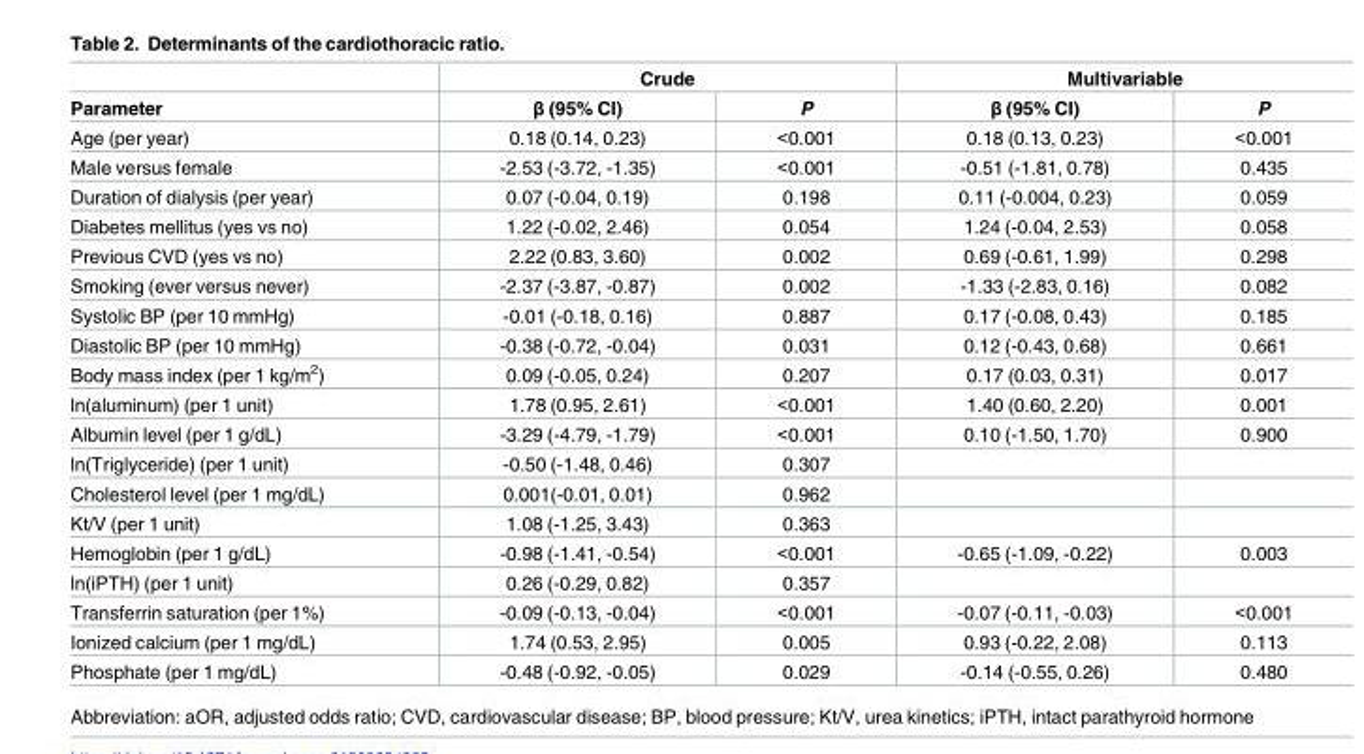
<table><thead><tr><td rowspan="2">Parameter</td><td colspan="2">Crude</td><td colspan="2">Multivariable</td></tr><tr><td>β (95% CI)</td><td>P</td><td>β (95% CI)</td><td>P</td></tr></thead><tbody><tr><td>Age (per year)</td><td>0.18 (0.14, 0.23)</td><td>&lt;0.001</td><td>0.18 (0.13, 0.23)</td><td>&lt;0.001</td></tr><tr><td>Male versus female</td><td>-2.53 (-3.72, -1.35)</td><td>&lt;0.001</td><td>-0.51 (-1.81, 0.78)</td><td>0.435</td></tr><tr><td>Duration of dialysis (per year)</td><td>0.07 (-0.04, 0.19)</td><td>0.198</td><td>0.11 (-0.004, 0.23)</td><td>0.059</td></tr><tr><td>Diabetes mellitus (yes vs no)</td><td>1.22 (-0.02, 2.46)</td><td>0.054</td><td>1.24 (-0.04, 2.53)</td><td>0.058</td></tr><tr><td>Previous CVD (yes vs no)</td><td>2.22 (0.83, 3.60)</td><td>0.002</td><td>0.69 (-0.61, 1.99)</td><td>0.298</td></tr><tr><td>Smoking (ever versus never)</td><td>-2.37 (-3.87, -0.87)</td><td>0.002</td><td>-1.33 (-2.83, 0.16)</td><td>0.082</td></tr><tr><td>Systolic BP (per 10 mmHg)</td><td>-0.01 (-0.18, 0.16)</td><td>0.887</td><td>0.17 (-0.08, 0.43)</td><td>0.185</td></tr><tr><td>Diastolic BP (per 10 mmHg)</td><td>-0.38 (-0.72, -0.04)</td><td>0.031</td><td>0.12 (-0.43, 0.68)</td><td>0.661</td></tr><tr><td>Body mass index (per 1 kg/m<sup>2</sup>)</td><td>0.09 (-0.05, 0.24)</td><td>0.207</td><td>0.17 (0.03, 0.31)</td><td>0.017</td></tr><tr><td>ln(aluminum) (per 1 unit)</td><td>1.78 (0.95, 2.61)</td><td>&lt;0.001</td><td>1.40 (0.60, 2.20)</td><td>0.001</td></tr><tr><td>Albumin level (per 1 g/dL)</td><td>-3.29 (-4.79, -1.79)</td><td>&lt;0.001</td><td>0.10 (-1.50, 1.70)</td><td>0.900</td></tr><tr><td>ln(Triglyceride) (per 1 unit)</td><td>-0.50 (-1.48, 0.46)</td><td>0.307</td><td></td><td></td></tr><tr><td>Cholesterol level (per 1 mg/dL)</td><td>0.001(-0.01, 0.01)</td><td>0.962</td><td></td><td></td></tr><tr><td>Kt/V (per 1 unit)</td><td>1.08 (-1.25, 3.43)</td><td>0.363</td><td></td><td></td></tr><tr><td>Hemoglobin (per 1 g/dL)</td><td>-0.98 (-1.41, -0.54)</td><td>&lt;0.001</td><td>-0.65 (-1.09, -0.22)</td><td>0.003</td></tr><tr><td>ln(iPTH) (per 1 unit)</td><td>0.26 (-0.29, 0.82)</td><td>0.357</td><td></td><td></td></tr><tr><td>Transferrin saturation (per 1%)</td><td>-0.09 (-0.13, -0.04)</td><td>&lt;0.001</td><td>-0.07 (-0.11, -0.03)</td><td>&lt;0.001</td></tr><tr><td>Ionized calcium (per 1 mg/dL)</td><td>1.74 (0.53, 2.95)</td><td>0.005</td><td>0.93 (-0.22, 2.08)</td><td>0.113</td></tr><tr><td>Phosphate (per 1 mg/dL)</td><td>-0.48 (-0.92, -0.05)</td><td>0.029</td><td>-0.14 (-0.55, 0.26)</td><td>0.480</td></tr></tbody></table>